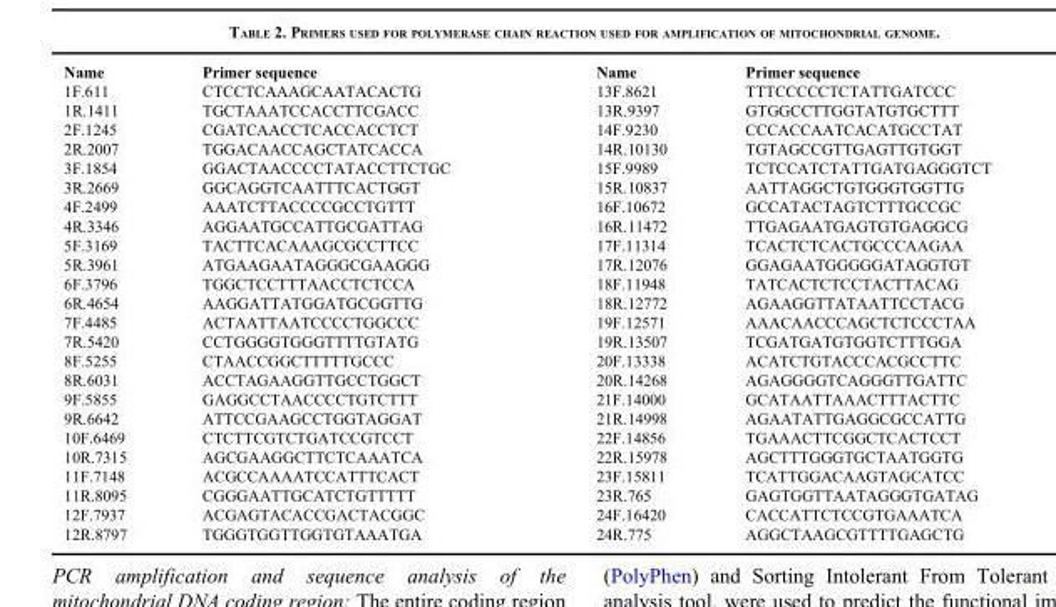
<table><thead><tr><td>Name</td><td>Primer sequence</td><td>Name</td><td>Primer sequence</td></tr></thead><tbody><tr><td>1F.611</td><td>CTCCTCAAAGCAATACACTG</td><td>13F.8621</td><td>TTTCCCCCTCTATTGATCCC</td></tr><tr><td>1R.1411</td><td>TGCTAAATCCACCTTCGACC</td><td>13R.9397</td><td>GTGGCCTTGGTATGTGCTTT</td></tr><tr><td>2F.1245</td><td>CGATCAACCTCACCACCTCT</td><td>14F.9230</td><td>CCCACCAATCACATGCCTAT</td></tr><tr><td>2R.2007</td><td>TGGACAACCAGCTATCACCA</td><td>14R.10130</td><td>TGTAGCCGTTGAGTTGTGGT</td></tr><tr><td>3F.1854</td><td>GGACTAACCCCTATACCTTCTGC</td><td>15F.9989</td><td>TCTCCATCTATTGATGAGGGTCT</td></tr><tr><td>3R.2669</td><td>GGCAGGTCAATTTCACTGGT</td><td>15R.10837</td><td>AATTAGGCTGTGGGTGGTTG</td></tr><tr><td>4F.2499</td><td>AAATCTTACCCCGCCTGTTT</td><td>16F.10672</td><td>GCCATACTAGTCTTTGCCGC</td></tr><tr><td>4R.3346</td><td>AGGAATGCCATTGCGATTAG</td><td>16R.11472</td><td>TTGAGAATGAGTGTGAGGCG</td></tr><tr><td>5F.3169</td><td>TACTTCACAAAGCGCCTTCC</td><td>17F.11314</td><td>TCACTCTCACTGCCCAAGAA</td></tr><tr><td>5R.3961</td><td>ATGAAGAATAGGGCGAAGGG</td><td>17R.12076</td><td>GGAGAATGGGGGATAGGTGT</td></tr><tr><td>6F.3796</td><td>TGGCTCCTTTAACCTCTCCA</td><td>18F.11948</td><td>TATCACTCTCCTACTTACAG</td></tr><tr><td>6R.4654</td><td>AAGGATTATGGATGCGGTTG</td><td>18R.12772</td><td>AGAAGGTTATAATTCCTACG</td></tr><tr><td>7F.4485</td><td>ACTAATTAATCCCCTGGCCC</td><td>19F.12571</td><td>AAACAACCCAGCTCTCCCTAA</td></tr><tr><td>7R.5420</td><td>CCTGGGGTGGGTTTTGTATG</td><td>19R.13507</td><td>TCGATGATGTGGTCTTTGGA</td></tr><tr><td>8F.5255</td><td>CTAACCGGCTTTTTGCCC</td><td>20F.13338</td><td>ACATCTGTACCCACGCCTTC</td></tr><tr><td>8R.6031</td><td>ACCTAGAAGGTTGCCTGGCT</td><td>20R.14268</td><td>AGAGGGGTCAGGGTTGATTC</td></tr><tr><td>9F.5855</td><td>GAGGCCTAACCCCTGTCTTT</td><td>21F.14000</td><td>GCATAATTAAACTTTACTTC</td></tr><tr><td>9R.6642</td><td>ATTCCGAAGCCTGGTAGGAT</td><td>21R.14998</td><td>AGAATATTGAGGCGCCATTG</td></tr><tr><td>10F.6469</td><td>CTCTTCGTCTGATCCGTCCT</td><td>22F.14856</td><td>TGAAACTTCGGCTCACTCCT</td></tr><tr><td>10R.7315</td><td>AGCGAAGGCTTCTCAAATCA</td><td>22R.15978</td><td>AGCTTTGGGTGCTAATGGTG</td></tr><tr><td>11F.7148</td><td>ACGCCAAAATCCATTTCACT</td><td>23F.15811</td><td>TCATTGGACAAGTAGCATCC</td></tr><tr><td>11R.8095</td><td>CGGGAATTGCATCTGTTTTT</td><td>23R.765</td><td>GAGTGGTTAATAGGGTGATAG</td></tr><tr><td>12F.7937</td><td>ACGAGTACACCGACTACGGC</td><td>24F.16420</td><td>CACCATTCTCCGTGAAATCA</td></tr><tr><td>12R.8797</td><td>TGGGTGGTTGGTGTAAATGA</td><td>24R.775</td><td>AGGCTAAGCGTTTTGAGCTG</td></tr></tbody></table>